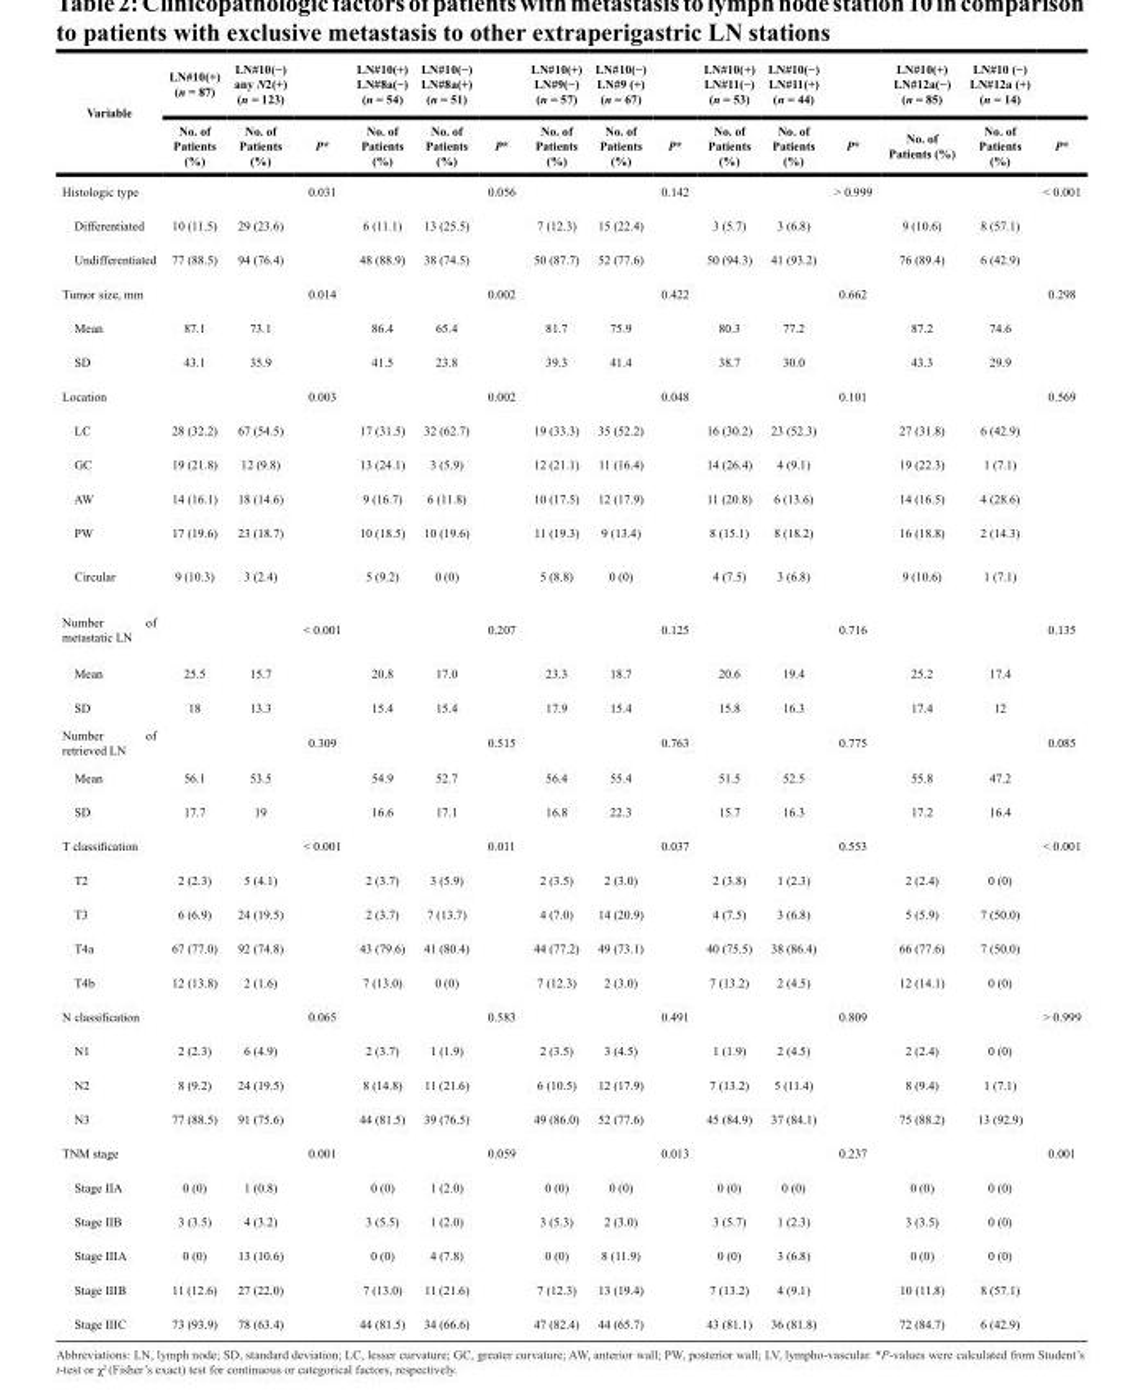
<table><thead><tr><td rowspan="2">Variable</td><td rowspan="2">LN#10(+) (n = 87) No. of Patients (%)</td><td rowspan="2">LN#10(−) any N2(+) (n = 123) No. of Patients (%)</td><td rowspan="2">P*</td><td rowspan="2">LN#10(+) LN#8a(−) (n = 54) No. of Patients (%)</td><td rowspan="2">LN#10(−) LN#8a(+) (n = 51) No. of Patients (%)</td><td rowspan="2">P*</td><td rowspan="2">LN#10(+) LN#9(−) (n = 57) No. of Patients (%)</td><td rowspan="2">LN#10(−) LN#9 (+) (n = 67) No. of Patients (%)</td><td rowspan="2">P*</td><td rowspan="2">LN#10(+) LN#11(−) (n = 53) No. of Patients (%)</td><td rowspan="2">LN#10(−) LN#11(+) (n = 44) No. of Patients (%)</td><td rowspan="2">P*</td><td rowspan="2">LN#10(+) LN#12a(−) (n = 85) No. of Patients (%)</td><td rowspan="2">LN#10 (−) LN#12a (+) (n = 14) No. of Patients (%)</td><td rowspan="2">P*</td></tr><tr></tr></thead><tbody><tr><td>Histologic type</td><td></td><td></td><td>0.031</td><td></td><td></td><td>0.056</td><td></td><td></td><td>0.142</td><td></td><td></td><td>&gt; 0.999</td><td></td><td></td><td>&lt; 0.001</td></tr><tr><td>Differentiated</td><td>10 (11.5)</td><td>29 (23.6)</td><td></td><td>6 (11.1)</td><td>13 (25.5)</td><td></td><td>7 (12.3)</td><td>15 (22.4)</td><td></td><td>3 (5.7)</td><td>3 (6.8)</td><td></td><td>9 (10.6)</td><td>8 (57.1)</td><td></td></tr><tr><td>Undifferentiated</td><td>77 (88.5)</td><td>94 (76.4)</td><td></td><td>48 (88.9)</td><td>38 (74.5)</td><td></td><td>50 (87.7)</td><td>52 (77.6)</td><td></td><td>50 (94.3)</td><td>41 (93.2)</td><td></td><td>76 (89.4)</td><td>6 (42.9)</td><td></td></tr><tr><td>Tumor size, mm</td><td></td><td></td><td>0.014</td><td></td><td></td><td>0.002</td><td></td><td></td><td>0.422</td><td></td><td></td><td>0.662</td><td></td><td></td><td>0.298</td></tr><tr><td>Mean</td><td>87.1</td><td>73.1</td><td></td><td>86.4</td><td>65.4</td><td></td><td>81.7</td><td>75.9</td><td></td><td>80.3</td><td>77.2</td><td></td><td>87.2</td><td>74.6</td><td></td></tr><tr><td>SD</td><td>43.1</td><td>35.9</td><td></td><td>41.5</td><td>23.8</td><td></td><td>39.3</td><td>41.4</td><td></td><td>38.7</td><td>30.0</td><td></td><td>43.3</td><td>29.9</td><td></td></tr><tr><td>Location</td><td></td><td></td><td>0.003</td><td></td><td></td><td>0.002</td><td></td><td></td><td>0.048</td><td></td><td></td><td>0.101</td><td></td><td></td><td>0.569</td></tr><tr><td>LC</td><td>28 (32.2)</td><td>67 (54.5)</td><td></td><td>17 (31.5)</td><td>32 (62.7)</td><td></td><td>19 (33.3)</td><td>35 (52.2)</td><td></td><td>16 (30.2)</td><td>23 (52.3)</td><td></td><td>27 (31.8)</td><td>6 (42.9)</td><td></td></tr><tr><td>GC</td><td>19 (21.8)</td><td>12 (9.8)</td><td></td><td>13 (24.1)</td><td>3 (5.9)</td><td></td><td>12 (21.1)</td><td>11 (16.4)</td><td></td><td>14 (26.4)</td><td>4 (9.1)</td><td></td><td>19 (22.3)</td><td>1 (7.1)</td><td></td></tr><tr><td>AW</td><td>14 (16.1)</td><td>18 (14.6)</td><td></td><td>9 (16.7)</td><td>6 (11.8)</td><td></td><td>10 (17.5)</td><td>12 (17.9)</td><td></td><td>11 (20.8)</td><td>6 (13.6)</td><td></td><td>14 (16.5)</td><td>4 (28.6)</td><td></td></tr><tr><td>PW</td><td>17 (19.6)</td><td>23 (18.7)</td><td></td><td>10 (18.5)</td><td>10 (19.6)</td><td></td><td>11 (19.3)</td><td>9 (13.4)</td><td></td><td>8 (15.1)</td><td>8 (18.2)</td><td></td><td>16 (18.8)</td><td>2 (14.3)</td><td></td></tr><tr><td>Circular</td><td>9 (10.3)</td><td>3 (2.4)</td><td></td><td>5 (9.2)</td><td>0 (0)</td><td></td><td>5 (8.8)</td><td>0 (0)</td><td></td><td>4 (7.5)</td><td>3 (6.8)</td><td></td><td>9 (10.6)</td><td>1 (7.1)</td><td></td></tr><tr><td>Number of metastatic LN</td><td></td><td></td><td>&lt; 0.001</td><td></td><td></td><td>0.207</td><td></td><td></td><td>0.125</td><td></td><td></td><td>0.716</td><td></td><td></td><td>0.135</td></tr><tr><td>Mean</td><td>25.5</td><td>15.7</td><td></td><td>20.8</td><td>17.0</td><td></td><td>23.3</td><td>18.7</td><td></td><td>20.6</td><td>19.4</td><td></td><td>25.2</td><td>17.4</td><td></td></tr><tr><td>SD</td><td>18</td><td>13.3</td><td></td><td>15.4</td><td>15.4</td><td></td><td>17.9</td><td>15.4</td><td></td><td>15.8</td><td>16.3</td><td></td><td>17.4</td><td>12</td><td></td></tr><tr><td>Number of retrieved LN</td><td></td><td></td><td>0.309</td><td></td><td></td><td>0.515</td><td></td><td></td><td>0.763</td><td></td><td></td><td>0.775</td><td></td><td></td><td>0.085</td></tr><tr><td>Mean</td><td>56.1</td><td>53.5</td><td></td><td>54.9</td><td>52.7</td><td></td><td>56.4</td><td>55.4</td><td></td><td>51.5</td><td>52.5</td><td></td><td>55.8</td><td>47.2</td><td></td></tr><tr><td>SD</td><td>17.7</td><td>19</td><td></td><td>16.6</td><td>17.1</td><td></td><td>16.8</td><td>22.3</td><td></td><td>15.7</td><td>16.3</td><td></td><td>17.2</td><td>16.4</td><td></td></tr><tr><td>T classification</td><td></td><td></td><td>&lt; 0.001</td><td></td><td></td><td>0.011</td><td></td><td></td><td>0.037</td><td></td><td></td><td>0.553</td><td></td><td></td><td>&lt; 0.001</td></tr><tr><td>T2</td><td>2 (2.3)</td><td>5 (4.1)</td><td></td><td>2 (3.7)</td><td>3 (5.9)</td><td></td><td>2 (3.5)</td><td>2 (3.0)</td><td></td><td>2 (3.8)</td><td>1 (2.3)</td><td></td><td>2 (2.4)</td><td>0 (0)</td><td></td></tr><tr><td>T3</td><td>6 (6.9)</td><td>24 (19.5)</td><td></td><td>2 (3.7)</td><td>7 (13.7)</td><td></td><td>4 (7.0)</td><td>14 (20.9)</td><td></td><td>4 (7.5)</td><td>3 (6.8)</td><td></td><td>5 (5.9)</td><td>7 (50.0)</td><td></td></tr><tr><td>T4a</td><td>67 (77.0)</td><td>92 (74.8)</td><td></td><td>43 (79.6)</td><td>41 (80.4)</td><td></td><td>44 (77.2)</td><td>49 (73.1)</td><td></td><td>40 (75.5)</td><td>38 (86.4)</td><td></td><td>66 (77.6)</td><td>7 (50.0)</td><td></td></tr><tr><td>T4b</td><td>12 (13.8)</td><td>2 (1.6)</td><td></td><td>7 (13.0)</td><td>0 (0)</td><td></td><td>7 (12.3)</td><td>2 (3.0)</td><td></td><td>7 (13.2)</td><td>2 (4.5)</td><td></td><td>12 (14.1)</td><td>0 (0)</td><td></td></tr><tr><td>N classification</td><td></td><td></td><td>0.065</td><td></td><td></td><td>0.583</td><td></td><td></td><td>0.491</td><td></td><td></td><td>0.809</td><td></td><td></td><td>&gt; 0.999</td></tr><tr><td>N1</td><td>2 (2.3)</td><td>6 (4.9)</td><td></td><td>2 (3.7)</td><td>1 (1.9)</td><td></td><td>2 (3.5)</td><td>3 (4.5)</td><td></td><td>1 (1.9)</td><td>2 (4.5)</td><td></td><td>2 (2.4)</td><td>0 (0)</td><td></td></tr><tr><td>N2</td><td>8 (9.2)</td><td>24 (19.5)</td><td></td><td>8 (14.8)</td><td>11 (21.6)</td><td></td><td>6 (10.5)</td><td>12 (17.9)</td><td></td><td>7 (13.2)</td><td>5 (11.4)</td><td></td><td>8 (9.4)</td><td>1 (7.1)</td><td></td></tr><tr><td>N3</td><td>77 (88.5)</td><td>91 (75.6)</td><td></td><td>44 (81.5)</td><td>39 (76.5)</td><td></td><td>49 (86.0)</td><td>52 (77.6)</td><td></td><td>45 (84.9)</td><td>37 (84.1)</td><td></td><td>75 (88.2)</td><td>13 (92.9)</td><td></td></tr><tr><td>TNM stage</td><td></td><td></td><td>0.001</td><td></td><td></td><td>0.059</td><td></td><td></td><td>0.013</td><td></td><td></td><td>0.237</td><td></td><td></td><td>0.001</td></tr><tr><td>Stage IIA</td><td>0 (0)</td><td>1 (0.8)</td><td></td><td>0 (0)</td><td>1 (2.0)</td><td></td><td>0 (0)</td><td>0 (0)</td><td></td><td>0 (0)</td><td>0 (0)</td><td></td><td>0 (0)</td><td>0 (0)</td><td></td></tr><tr><td>Stage IIB</td><td>3 (3.5)</td><td>4 (3.2)</td><td></td><td>3 (5.5)</td><td>1 (2.0)</td><td></td><td>3 (5.3)</td><td>2 (3.0)</td><td></td><td>3 (5.7)</td><td>1 (2.3)</td><td></td><td>3 (3.5)</td><td>0 (0)</td><td></td></tr><tr><td>Stage IIIA</td><td>0 (0)</td><td>13 (10.6)</td><td></td><td>0 (0)</td><td>4 (7.8)</td><td></td><td>0 (0)</td><td>8 (11.9)</td><td></td><td>0 (0)</td><td>3 (6.8)</td><td></td><td>0 (0)</td><td>0 (0)</td><td></td></tr><tr><td>Stage IIIB</td><td>11 (12.6)</td><td>27 (22.0)</td><td></td><td>7 (13.0)</td><td>11 (21.6)</td><td></td><td>7 (12.3)</td><td>13 (19.4)</td><td></td><td>7 (13.2)</td><td>4 (9.1)</td><td></td><td>10 (11.8)</td><td>8 (57.1)</td><td></td></tr><tr><td>Stage IIIC</td><td>73 (93.9)</td><td>78 (63.4)</td><td></td><td>44 (81.5)</td><td>34 (66.6)</td><td></td><td>47 (82.4)</td><td>44 (65.7)</td><td></td><td>43 (81.1)</td><td>36 (81.8)</td><td></td><td>72 (84.7)</td><td>6 (42.9)</td><td></td></tr></tbody></table>